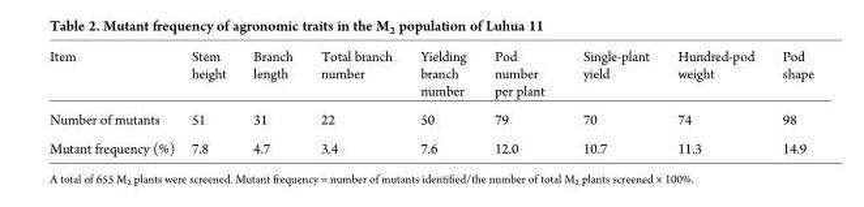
<table><thead><tr><td>Item</td><td>Stem height</td><td>Branch length</td><td>Total branch number</td><td>Yielding branch number</td><td>Pod number per plant</td><td>Single-plant yield</td><td>Hundred-pod weight</td><td>Pod shape</td></tr></thead><tbody><tr><td>Number of mutants</td><td>51</td><td>31</td><td>22</td><td>50</td><td>79</td><td>70</td><td>74</td><td>98</td></tr><tr><td>Mutant frequency (%)</td><td>7.8</td><td>4.7</td><td>3.4</td><td>7.6</td><td>12.0</td><td>10.7</td><td>11.3</td><td>14.9</td></tr></tbody></table>